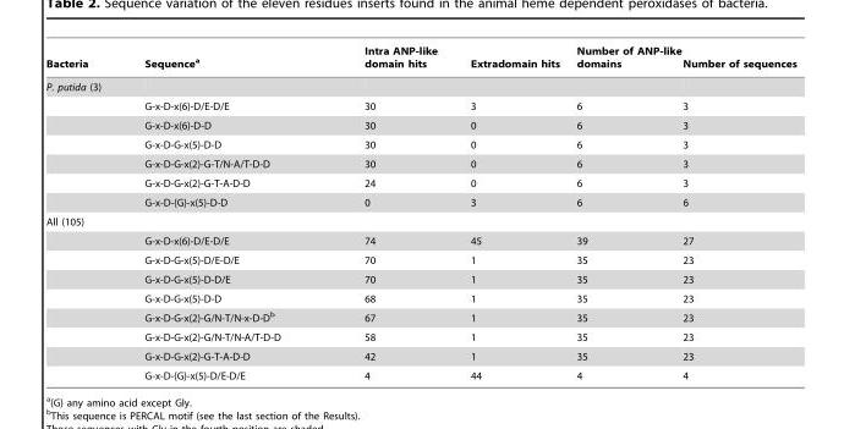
<table><thead><tr><td>Bacteria</td><td>Sequence<sup>a</sup></td><td>Intra ANP-like domain hits</td><td>Extradomain hits</td><td>Number of ANP-like domains</td><td>Number of sequences</td></tr></thead><tbody><tr><td colspan="6">P. putida (3)</td></tr><tr><td></td><td>G-x-D-x(6)-D/E-D/E</td><td>30</td><td>3</td><td>6</td><td>3</td></tr><tr><td></td><td>G-x-D-x(6)-D-D</td><td>30</td><td>0</td><td>6</td><td>3</td></tr><tr><td></td><td>G-x-D-G-x(5)-D-D</td><td>30</td><td>0</td><td>6</td><td>3</td></tr><tr><td></td><td>G-x-D-G-x(2)-G-T/N-A/T-D-D</td><td>30</td><td>0</td><td>6</td><td>3</td></tr><tr><td></td><td>G-x-D-G-x(2)-G-T-A-D-D</td><td>24</td><td>0</td><td>6</td><td>3</td></tr><tr><td></td><td>G-x-D-{G}-x(5)-D-D</td><td>0</td><td>3</td><td>6</td><td>6</td></tr><tr><td colspan="6">All (105)</td></tr><tr><td></td><td>G-x-D-x(6)-D/E-D/E</td><td>74</td><td>45</td><td>39</td><td>27</td></tr><tr><td></td><td>G-x-D-G-x(5)-D/E-D/E</td><td>70</td><td>1</td><td>35</td><td>23</td></tr><tr><td></td><td>G-x-D-G-x(5)-D-D/E</td><td>70</td><td>1</td><td>35</td><td>23</td></tr><tr><td></td><td>G-x-D-G-x(5)-D-D</td><td>68</td><td>1</td><td>35</td><td>23</td></tr><tr><td></td><td>G-x-D-G-x(2)-G/N-T/N-x-D-D<sup>b</sup></td><td>67</td><td>1</td><td>35</td><td>23</td></tr><tr><td></td><td>G-x-D-G-x(2)-G/N-T/N-A/T-D-D</td><td>58</td><td>1</td><td>35</td><td>23</td></tr><tr><td></td><td>G-x-D-G-x(2)-G-T-A-D-D</td><td>42</td><td>1</td><td>35</td><td>23</td></tr><tr><td></td><td>G-x-D-{G}-x(5)-D/E-D/E</td><td>4</td><td>44</td><td>4</td><td>4</td></tr></tbody></table>